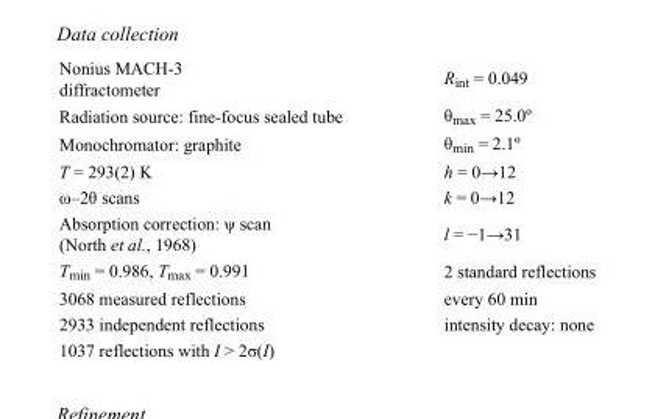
<table><tbody><tr><td>Nonius MACH-3 diffractometer</td><td>R<sub>int</sub> = 0.049</td></tr><tr><td>Radiation source: fine-focus sealed tube</td><td>θ<sub>max</sub> = 25.0º</td></tr><tr><td>Monochromator: graphite</td><td>θ<sub>min</sub> = 2.1º</td></tr><tr><td>T = 293(2) K</td><td>h = 0→12</td></tr><tr><td>ω–2θ scans</td><td>k = 0→12</td></tr><tr><td>Absorption correction: ψ scan (North et al., 1968)</td><td>l = −1→31</td></tr><tr><td>T<sub>min</sub> = 0.986, T<sub>max</sub> = 0.991</td><td>2 standard reflections</td></tr><tr><td>3068 measured reflections</td><td>every 60 min</td></tr><tr><td>2933 independent reflections</td><td>intensity decay: none</td></tr><tr><td>1037 reflections with I &gt; 2σ(I)</td><td></td></tr></tbody></table>